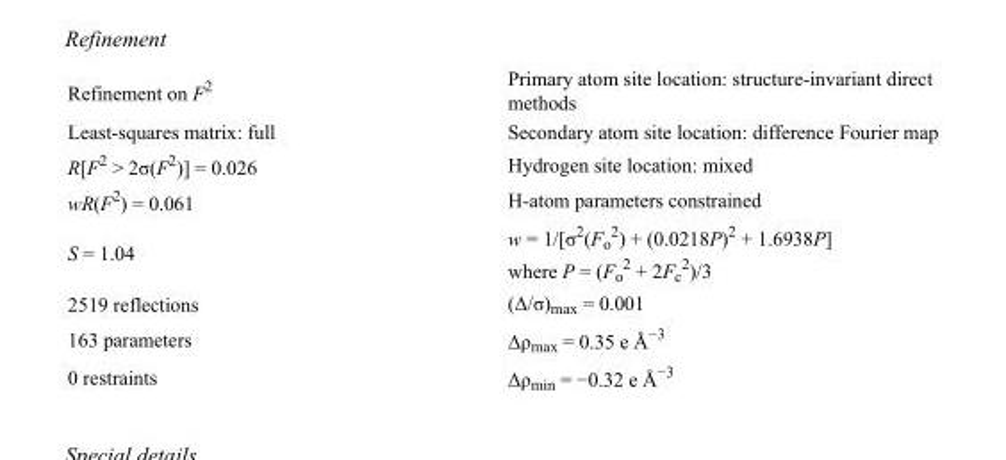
<table><tbody><tr><td>Refinement on F<sup>2</sup></td><td>Primary atom site location: structure-invariant direct methods</td></tr><tr><td>Least-squares matrix: full</td><td>Secondary atom site location: difference Fourier map</td></tr><tr><td>R[F<sup>2</sup> &gt; 2σ(F<sup>2</sup>)] = 0.026</td><td>Hydrogen site location: mixed</td></tr><tr><td>wR(F<sup>2</sup>) = 0.061</td><td>H-atom parameters constrained</td></tr><tr><td>S = 1.04</td><td>w = 1/[σ<sup>2</sup>(F<sub>o</sub> <sup>2</sup>) + (0.0218P)<sup>2</sup> + 1.6938P] where P = (F<sub>o</sub> <sup>2</sup> + 2F<sub>c</sub> <sup>2</sup>)/3</td></tr><tr><td>2519 reflections</td><td>(Δ/σ)<sub>max</sub> = 0.001</td></tr><tr><td>163 parameters</td><td>Δρ<sub>max</sub> = 0.35 e Å<sup>−3</sup></td></tr><tr><td>0 restraints</td><td>Δρ<sub>min</sub> = −0.32 e Å<sup>−3</sup></td></tr></tbody></table>